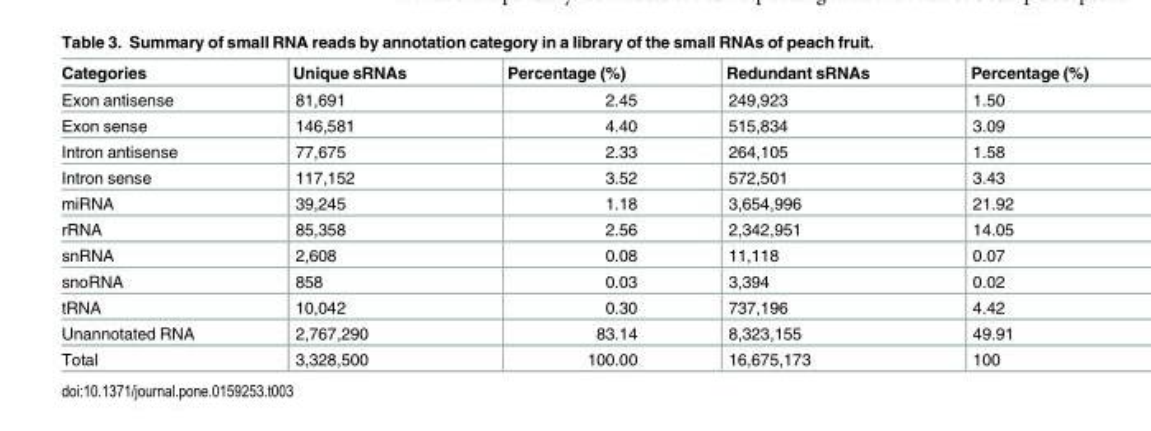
<table><thead><tr><td>Categories</td><td>Unique sRNAs</td><td>Percentage (%)</td><td>Redundant sRNAs</td><td>Percentage (%)</td></tr></thead><tbody><tr><td>Exon antisense</td><td>81,691</td><td>2.45</td><td>249,923</td><td>1.50</td></tr><tr><td>Exon sense</td><td>146,581</td><td>4.40</td><td>515,834</td><td>3.09</td></tr><tr><td>Intron antisense</td><td>77,675</td><td>2.33</td><td>264,105</td><td>1.58</td></tr><tr><td>Intron sense</td><td>117,152</td><td>3.52</td><td>572,501</td><td>3.43</td></tr><tr><td>miRNA</td><td>39,245</td><td>1.18</td><td>3,654,996</td><td>21.92</td></tr><tr><td>rRNA</td><td>85,358</td><td>2.56</td><td>2,342,951</td><td>14.05</td></tr><tr><td>snRNA</td><td>2,608</td><td>0.08</td><td>11,118</td><td>0.07</td></tr><tr><td>snoRNA</td><td>858</td><td>0.03</td><td>3,394</td><td>0.02</td></tr><tr><td>tRNA</td><td>10,042</td><td>0.30</td><td>737,196</td><td>4.42</td></tr><tr><td>Unannotated RNA</td><td>2,767,290</td><td>83.14</td><td>8,323,155</td><td>49.91</td></tr><tr><td>Total</td><td>3,328,500</td><td>100.00</td><td>16,675,173</td><td>100</td></tr></tbody></table>